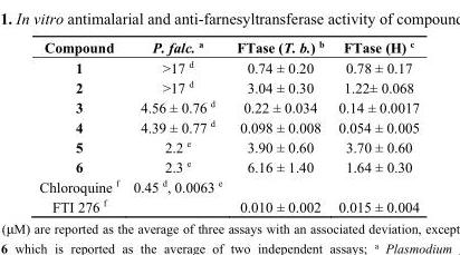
<table><thead><tr><td>Compound</td><td>P. falc. <sup>a</sup></td><td>FTase (T. b.) <sup>b</sup></td><td>FTase (H) <sup>c</sup></td></tr></thead><tbody><tr><td>1</td><td>&gt;17 <sup>d</sup></td><td>0.74 ± 0.20</td><td>0.78 ± 0.17</td></tr><tr><td>2</td><td>&gt;17 <sup>d</sup></td><td>3.04 ± 0.30</td><td>1.22± 0.068</td></tr><tr><td>3</td><td>4.56 ± 0.76 <sup>d</sup></td><td>0.22 ± 0.034</td><td>0.14 ± 0.0017</td></tr><tr><td>4</td><td>4.39 ± 0.77 <sup>d</sup></td><td>0.098 ± 0.008</td><td>0.054 ± 0.005</td></tr><tr><td>5</td><td>2.2 <sup>e</sup></td><td>3.90 ± 0.60</td><td>3.70 ± 0.60</td></tr><tr><td>6</td><td>2.3 <sup>e</sup></td><td>6.16 ± 1.40</td><td>1.64 ± 0.30</td></tr><tr><td>Chloroquine <sup>f</sup></td><td>0.45 <sup>d</sup>, 0.0063 <sup>e</sup></td><td></td><td></td></tr><tr><td>FTI 276 <sup>f</sup></td><td></td><td>0.010 ± 0.002</td><td>0.015 ± 0.004</td></tr></tbody></table>